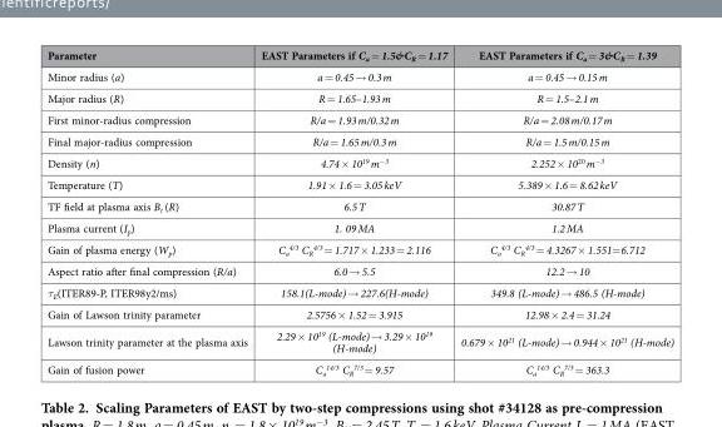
<table><thead><tr><td>Parameter</td><td>EAST Parameters if C<sub>a</sub> = 1.5&amp;C<sub>R</sub> = 1.17</td><td>EAST Parameters if C<sub>a</sub> = 3&amp;C<sub>R</sub> = 1.39</td></tr></thead><tbody><tr><td>Minor radius (a)</td><td>a = 0.45 → 0.3 m</td><td>a = 0.45 → 0.15 m</td></tr><tr><td>Major radius (R)</td><td>R = 1.65–1.93 m</td><td>R = 1.5–2.1 m</td></tr><tr><td>First minor-radius compression</td><td>R/a = 1.93 m/0.32 m</td><td>R/a = 2.08 m/0.17 m</td></tr><tr><td>Final major-radius compression</td><td>R/a = 1.65 m/0.3 m</td><td>R/a = 1.5 m/0.15 m</td></tr><tr><td>Density (n)</td><td>4.74 × 10<sup>19</sup> m<sup>−3</sup></td><td>2.252 × 10<sup>20</sup> m<sup>−3</sup></td></tr><tr><td>Temperature (T)</td><td>1.91 × 1.6 = 3.05 keV</td><td>5.389 × 1.6 = 8.62 keV</td></tr><tr><td>TF field at plasma axis B<sub>t</sub> (R)</td><td>6.5 T</td><td>30.87 T</td></tr><tr><td>Plasma current (I<sub>p</sub>)</td><td>1. 09 MA</td><td>1.2 MA</td></tr><tr><td>Gain of plasma energy (W<sub>p</sub>)</td><td>C<sub>a</sub> <sup>4/3</sup> C<sub>R</sub> <sup>4/3</sup> = 1.717 × 1.233 = 2.116</td><td>C<sub>a</sub> <sup>4/3</sup> C<sub>R</sub> <sup>4/3</sup> = 4.3267 × 1.551= 6.712</td></tr><tr><td>Aspect ratio after final compression (R/a)</td><td>6.0 → 5.5</td><td>12.2 → 10</td></tr><tr><td>τ<sub>E</sub>(ITER89-P, ITER98y2/ms)</td><td>158.1(L-mode) → 227.6(H-mode)</td><td>349.8 (L-mode) → 486.5 (H-mode)</td></tr><tr><td>Gain of Lawson trinity parameter</td><td>2.5756 × 1.52 = 3.915</td><td>12.98 × 2.4 = 31.24</td></tr><tr><td>Lawson trinity parameter at the plasma axis</td><td>2.29 × 10<sup>19</sup> (L-mode) → 3.29 × 10<sup>19</sup> (H-mode)</td><td>0.679 × 10<sup>21</sup> (L-mode) → 0.944 × 10<sup>21</sup> (H-mode)</td></tr><tr><td>Gain of fusion power</td><td>C<sub>a</sub> <sup>14/3</sup> C<sub>R</sub> <sup>7/3</sup> = 9.57</td><td>C<sub>a</sub> <sup>14/3</sup> C<sub>R</sub> <sup>7/3</sup> = 363.3</td></tr></tbody></table>